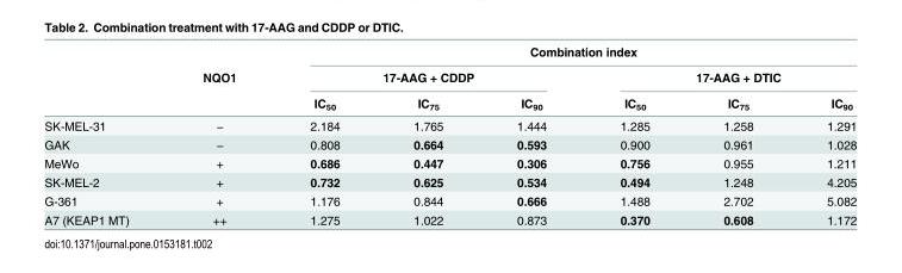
<table><thead><tr><td rowspan="3"></td><td rowspan="3">NQO1</td><td colspan="6">Combination index</td></tr><tr><td colspan="3">17-AAG + CDDP</td><td colspan="3">17-AAG + DTIC</td></tr><tr><td>IC<sub>50</sub></td><td>IC<sub>75</sub></td><td>IC<sub>90</sub></td><td>IC<sub>50</sub></td><td>IC<sub>75</sub></td><td>IC<sub>90</sub></td></tr></thead><tbody><tr><td>SK-MEL-31</td><td>−</td><td>2.184</td><td>1.765</td><td>1.444</td><td>1.285</td><td>1.258</td><td>1.291</td></tr><tr><td>GAK</td><td>−</td><td>0.808</td><td>0.664</td><td>0.593</td><td>0.900</td><td>0.961</td><td>1.028</td></tr><tr><td>MeWo</td><td>+</td><td>0.686</td><td>0.447</td><td>0.306</td><td>0.756</td><td>0.955</td><td>1.211</td></tr><tr><td>SK-MEL-2</td><td>+</td><td>0.732</td><td>0.625</td><td>0.534</td><td>0.494</td><td>1.248</td><td>4.205</td></tr><tr><td>G-361</td><td>+</td><td>1.176</td><td>0.844</td><td>0.666</td><td>1.488</td><td>2.702</td><td>5.082</td></tr><tr><td>A7 (KEAP1 MT)</td><td>++</td><td>1.275</td><td>1.022</td><td>0.873</td><td>0.370</td><td>0.608</td><td>1.172</td></tr></tbody></table>